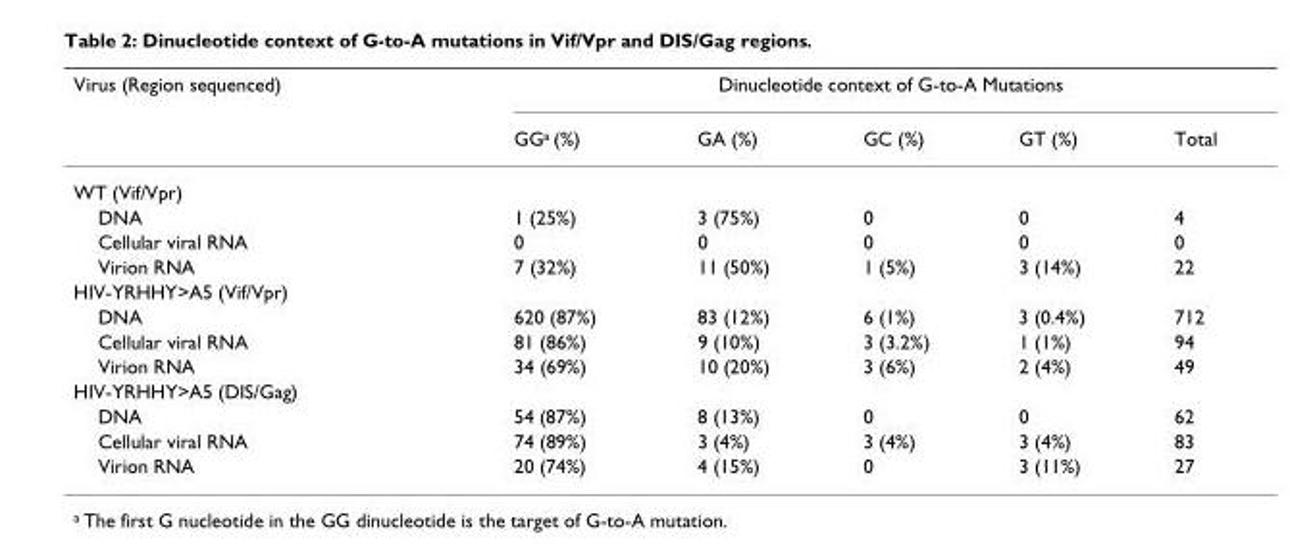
<table><thead><tr><td rowspan="2">Virus (Region sequenced)</td><td colspan="5">Dinucleotide context of G-to-A Mutations</td></tr><tr><td>GG<sup>a</sup> (%)</td><td>GA (%)</td><td>GC (%)</td><td>GT (%)</td><td>Total</td></tr></thead><tbody><tr><td colspan="6">WT (Vif/Vpr)</td></tr><tr><td>DNA</td><td>1 (25%)</td><td>3 (75%)</td><td>0</td><td>0</td><td>4</td></tr><tr><td>Cellular viral RNA</td><td>0</td><td>0</td><td>0</td><td>0</td><td>0</td></tr><tr><td>Virion RNA</td><td>7 (32%)</td><td>11 (50%)</td><td>1 (5%)</td><td>3 (14%)</td><td>22</td></tr><tr><td colspan="6">HIV-YRHHY&gt;A5 (Vif/Vpr)</td></tr><tr><td>DNA</td><td>620 (87%)</td><td>83 (12%)</td><td>6 (1%)</td><td>3 (0.4%)</td><td>712</td></tr><tr><td>Cellular viral RNA</td><td>81 (86%)</td><td>9 (10%)</td><td>3 (3.2%)</td><td>1 (1%)</td><td>94</td></tr><tr><td>Virion RNA</td><td>34 (69%)</td><td>10 (20%)</td><td>3 (6%)</td><td>2 (4%)</td><td>49</td></tr><tr><td colspan="6">HIV-YRHHY&gt;A5 (DIS/Gag)</td></tr><tr><td>DNA</td><td>54 (87%)</td><td>8 (13%)</td><td>0</td><td>0</td><td>62</td></tr><tr><td>Cellular viral RNA</td><td>74 (89%)</td><td>3 (4%)</td><td>3 (4%)</td><td>3 (4%)</td><td>83</td></tr><tr><td>Virion RNA</td><td>20 (74%)</td><td>4 (15%)</td><td>0</td><td>3 (11%)</td><td>27</td></tr></tbody></table>